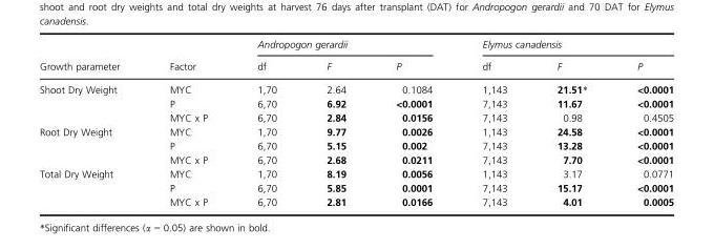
<table><thead><tr><td rowspan="2">Growth parameter</td><td rowspan="2">Factor</td><td colspan="3">Andropogon gerardii</td><td colspan="3">Elymus canadensis</td></tr><tr><td>df</td><td>F</td><td>P</td><td>df</td><td>F</td><td>P</td></tr></thead><tbody><tr><td rowspan="3">Shoot Dry Weight</td><td>MYC</td><td>1,70</td><td>2.64</td><td>0.1084</td><td>1,143</td><td>21.51*</td><td>&lt;0.0001</td></tr><tr><td>P</td><td>6,70</td><td>6.92</td><td>&lt;0.0001</td><td>7,143</td><td>11.67</td><td>&lt;0.0001</td></tr><tr><td>MYC x P</td><td>6,70</td><td>2.84</td><td>0.0156</td><td>7,143</td><td>0.98</td><td>0.4505</td></tr><tr><td rowspan="3">Root Dry Weight</td><td>MYC</td><td>1,70</td><td>9.77</td><td>0.0026</td><td>1,143</td><td>24.58</td><td>&lt;0.0001</td></tr><tr><td>P</td><td>6,70</td><td>5.15</td><td>0.002</td><td>7,143</td><td>13.28</td><td>&lt;0.0001</td></tr><tr><td>MYC x P</td><td>6,70</td><td>2.68</td><td>0.0211</td><td>7,143</td><td>7.70</td><td>&lt;0.0001</td></tr><tr><td rowspan="3">Total Dry Weight</td><td>MYC</td><td>1,70</td><td>8.19</td><td>0.0056</td><td>1,143</td><td>3.17</td><td>0.0771</td></tr><tr><td>P</td><td>6,70</td><td>5.85</td><td>0.0001</td><td>7,143</td><td>15.17</td><td>&lt;0.0001</td></tr><tr><td>MYC x P</td><td>6,70</td><td>2.81</td><td>0.0166</td><td>7,143</td><td>4.01</td><td>0.0005</td></tr></tbody></table>